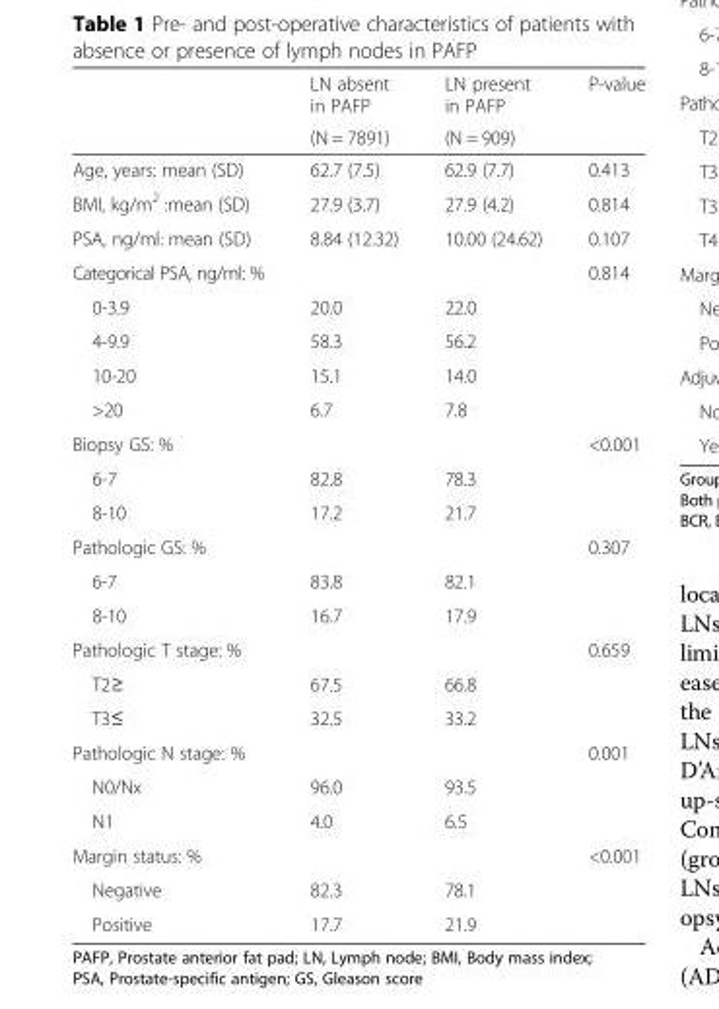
<table><thead><tr><td rowspan="2"></td><td rowspan="2">LN absent in PAFP (N = 7891)</td><td rowspan="2">LN present in PAFP (N = 909)</td><td rowspan="2">P-value</td></tr><tr></tr></thead><tbody><tr><td>Age, years: mean (SD)</td><td>62.7 (7.5)</td><td>62.9 (7.7)</td><td>0.413</td></tr><tr><td>BMI, kg/m<sup>2</sup> :mean (SD)</td><td>27.9 (3.7)</td><td>27.9 (4.2)</td><td>0.814</td></tr><tr><td>PSA, ng/ml: mean (SD)</td><td>8.84 (12.32)</td><td>10.00 (24.62)</td><td>0.107</td></tr><tr><td>Categorical PSA, ng/ml: %</td><td></td><td></td><td>0.814</td></tr><tr><td>0-3.9</td><td>20.0</td><td>22.0</td><td></td></tr><tr><td>4-9.9</td><td>58.3</td><td>56.2</td><td></td></tr><tr><td>10-20</td><td>15.1</td><td>14.0</td><td></td></tr><tr><td>&gt;20</td><td>6.7</td><td>7.8</td><td></td></tr><tr><td>Biopsy GS: %</td><td></td><td></td><td>&lt;0.001</td></tr><tr><td>6-7</td><td>82.8</td><td>78.3</td><td></td></tr><tr><td>8-10</td><td>17.2</td><td>21.7</td><td></td></tr><tr><td>Pathologic GS: %</td><td></td><td></td><td>0.307</td></tr><tr><td>6-7</td><td>83.8</td><td>82.1</td><td></td></tr><tr><td>8-10</td><td>16.7</td><td>17.9</td><td></td></tr><tr><td>Pathologic T stage: %</td><td></td><td></td><td>0.659</td></tr><tr><td>T2≥</td><td>67.5</td><td>66.8</td><td></td></tr><tr><td>T3≤</td><td>32.5</td><td>33.2</td><td></td></tr><tr><td colspan="2">Pathologic N stage: %</td><td></td><td>0.001</td></tr><tr><td>N0/Nx</td><td>96.0</td><td>93.5</td><td></td></tr><tr><td>N1</td><td>4.0</td><td>6.5</td><td></td></tr><tr><td>Margin status: %</td><td></td><td></td><td>&lt;0.001</td></tr><tr><td>Negative</td><td>82.3</td><td>78.1</td><td></td></tr><tr><td>Positive</td><td>17.7</td><td>21.9</td><td></td></tr></tbody></table>